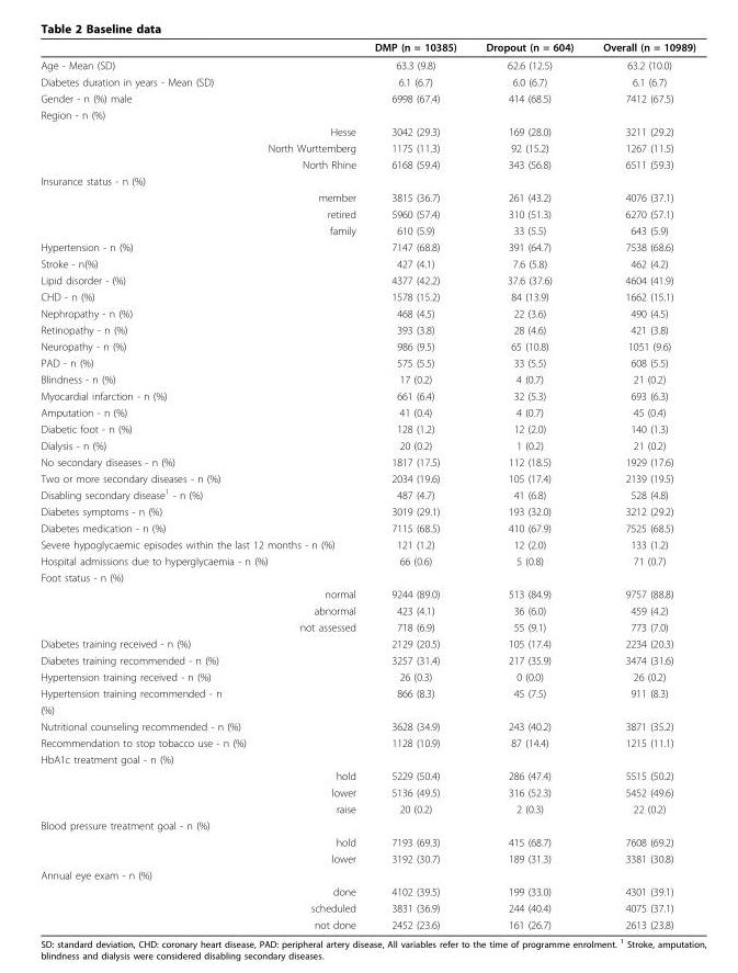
<table><thead><tr><td></td><td>DMP (n = 10385)</td><td>Dropout (n = 604)</td><td>Overall (n = 10989)</td></tr></thead><tbody><tr><td>Age - Mean (SD)</td><td>63.3 (9.8)</td><td>62.6 (12.5)</td><td>63.2 (10.0)</td></tr><tr><td>Diabetes duration in years - Mean (SD)</td><td>6.1 (6.7)</td><td>6.0 (6.7)</td><td>6.1 (6.7)</td></tr><tr><td>Gender - n (%) male</td><td>6998 (67.4)</td><td>414 (68.5)</td><td>7412 (67.5)</td></tr><tr><td colspan="4">Region - n (%)</td></tr><tr><td>Hesse</td><td>3042 (29.3)</td><td>169 (28.0)</td><td>3211 (29.2)</td></tr><tr><td>North Wurttemberg</td><td>1175 (11.3)</td><td>92 (15.2)</td><td>1267 (11.5)</td></tr><tr><td>North Rhine</td><td>6168 (59.4)</td><td>343 (56.8)</td><td>6511 (59.3)</td></tr><tr><td colspan="4">Insurance status - n (%)</td></tr><tr><td>member</td><td>3815 (36.7)</td><td>261 (43.2)</td><td>4076 (37.1)</td></tr><tr><td>retired</td><td>5960 (57.4)</td><td>310 (51.3)</td><td>6270 (57.1)</td></tr><tr><td>family</td><td>610 (5.9)</td><td>33 (5.5)</td><td>643 (5.9)</td></tr><tr><td>Hypertension - n (%)</td><td>7147 (68.8)</td><td>391 (64.7)</td><td>7538 (68.6)</td></tr><tr><td>Stroke - n(%)</td><td>427 (4.1)</td><td>7.6 (5.8)</td><td>462 (4.2)</td></tr><tr><td>Lipid disorder - (%)</td><td>4377 (42.2)</td><td>37.6 (37.6)</td><td>4604 (41.9)</td></tr><tr><td>CHD - n (%)</td><td>1578 (15.2)</td><td>84 (13.9)</td><td>1662 (15.1)</td></tr><tr><td>Nephropathy - n (%)</td><td>468 (4.5)</td><td>22 (3.6)</td><td>490 (4.5)</td></tr><tr><td>Retinopathy - n (%)</td><td>393 (3.8)</td><td>28 (4.6)</td><td>421 (3.8)</td></tr><tr><td>Neuropathy - n (%)</td><td>986 (9.5)</td><td>65 (10.8)</td><td>1051 (9.6)</td></tr><tr><td>PAD - n (%)</td><td>575 (5.5)</td><td>33 (5.5)</td><td>608 (5.5)</td></tr><tr><td>Blindness - n (%)</td><td>17 (0.2)</td><td>4 (0.7)</td><td>21 (0.2)</td></tr><tr><td>Myocardial infarction - n (%)</td><td>661 (6.4)</td><td>32 (5.3)</td><td>693 (6.3)</td></tr><tr><td>Amputation - n (%)</td><td>41 (0.4)</td><td>4 (0.7)</td><td>45 (0.4)</td></tr><tr><td>Diabetic foot - n (%)</td><td>128 (1.2)</td><td>12 (2.0)</td><td>140 (1.3)</td></tr><tr><td>Dialysis - n (%)</td><td>20 (0.2)</td><td>1 (0.2)</td><td>21 (0.2)</td></tr><tr><td>No secondary diseases - n (%)</td><td>1817 (17.5)</td><td>112 (18.5)</td><td>1929 (17.6)</td></tr><tr><td>Two or more secondary diseases - n (%)</td><td>2034 (19.6)</td><td>105 (17.4)</td><td>2139 (19.5)</td></tr><tr><td>Disabling secondary disease<sup>1</sup> - n (%)</td><td>487 (4.7)</td><td>41 (6.8)</td><td>528 (4.8)</td></tr><tr><td>Diabetes symptoms - n (%)</td><td>3019 (29.1)</td><td>193 (32.0)</td><td>3212 (29.2)</td></tr><tr><td>Diabetes medication - n (%)</td><td>7115 (68.5)</td><td>410 (67.9)</td><td>7525 (68.5)</td></tr><tr><td>Severe hypoglycaemic episodes within the last 12 months - n (%)</td><td>121 (1.2)</td><td>12 (2.0)</td><td>133 (1.2)</td></tr><tr><td>Hospital admissions due to hyperglycaemia - n (%)</td><td>66 (0.6)</td><td>5 (0.8)</td><td>71 (0.7)</td></tr><tr><td colspan="4">Foot status - n (%)</td></tr><tr><td>normal</td><td>9244 (89.0)</td><td>513 (84.9)</td><td>9757 (88.8)</td></tr><tr><td>abnormal</td><td>423 (4.1)</td><td>36 (6.0)</td><td>459 (4.2)</td></tr><tr><td>not assessed</td><td>718 (6.9)</td><td>55 (9.1)</td><td>773 (7.0)</td></tr><tr><td>Diabetes training received - n (%)</td><td>2129 (20.5)</td><td>105 (17.4)</td><td>2234 (20.3)</td></tr><tr><td>Diabetes training recommended - n (%)</td><td>3257 (31.4)</td><td>217 (35.9)</td><td>3474 (31.6)</td></tr><tr><td>Hypertension training received - n (%)</td><td>26 (0.3)</td><td>0 (0.0)</td><td>26 (0.2)</td></tr><tr><td>Hypertension training recommended - n</td><td>866 (8.3)</td><td>45 (7.5)</td><td>911 (8.3)</td></tr><tr><td colspan="4">(%)</td></tr><tr><td>Nutritional counseling recommended - n (%)</td><td>3628 (34.9)</td><td>243 (40.2)</td><td>3871 (35.2)</td></tr><tr><td>Recommendation to stop tobacco use - n (%)</td><td>1128 (10.9)</td><td>87 (14.4)</td><td>1215 (11.1)</td></tr><tr><td colspan="4">HbA1c treatment goal - n (%)</td></tr><tr><td>hold</td><td>5229 (50.4)</td><td>286 (47.4)</td><td>5515 (50.2)</td></tr><tr><td>lower</td><td>5136 (49.5)</td><td>316 (52.3)</td><td>5452 (49.6)</td></tr><tr><td>raise</td><td>20 (0.2)</td><td>2 (0.3)</td><td>22 (0.2)</td></tr><tr><td colspan="4">Blood pressure treatment goal - n (%)</td></tr><tr><td>hold</td><td>7193 (69.3)</td><td>415 (68.7)</td><td>7608 (69.2)</td></tr><tr><td>lower</td><td>3192 (30.7)</td><td>189 (31.3)</td><td>3381 (30.8)</td></tr><tr><td colspan="4">Annual eye exam - n (%)</td></tr><tr><td>done</td><td>4102 (39.5)</td><td>199 (33.0)</td><td>4301 (39.1)</td></tr><tr><td>scheduled</td><td>3831 (36.9)</td><td>244 (40.4)</td><td>4075 (37.1)</td></tr><tr><td>not done</td><td>2452 (23.6)</td><td>161 (26.7)</td><td>2613 (23.8)</td></tr></tbody></table>